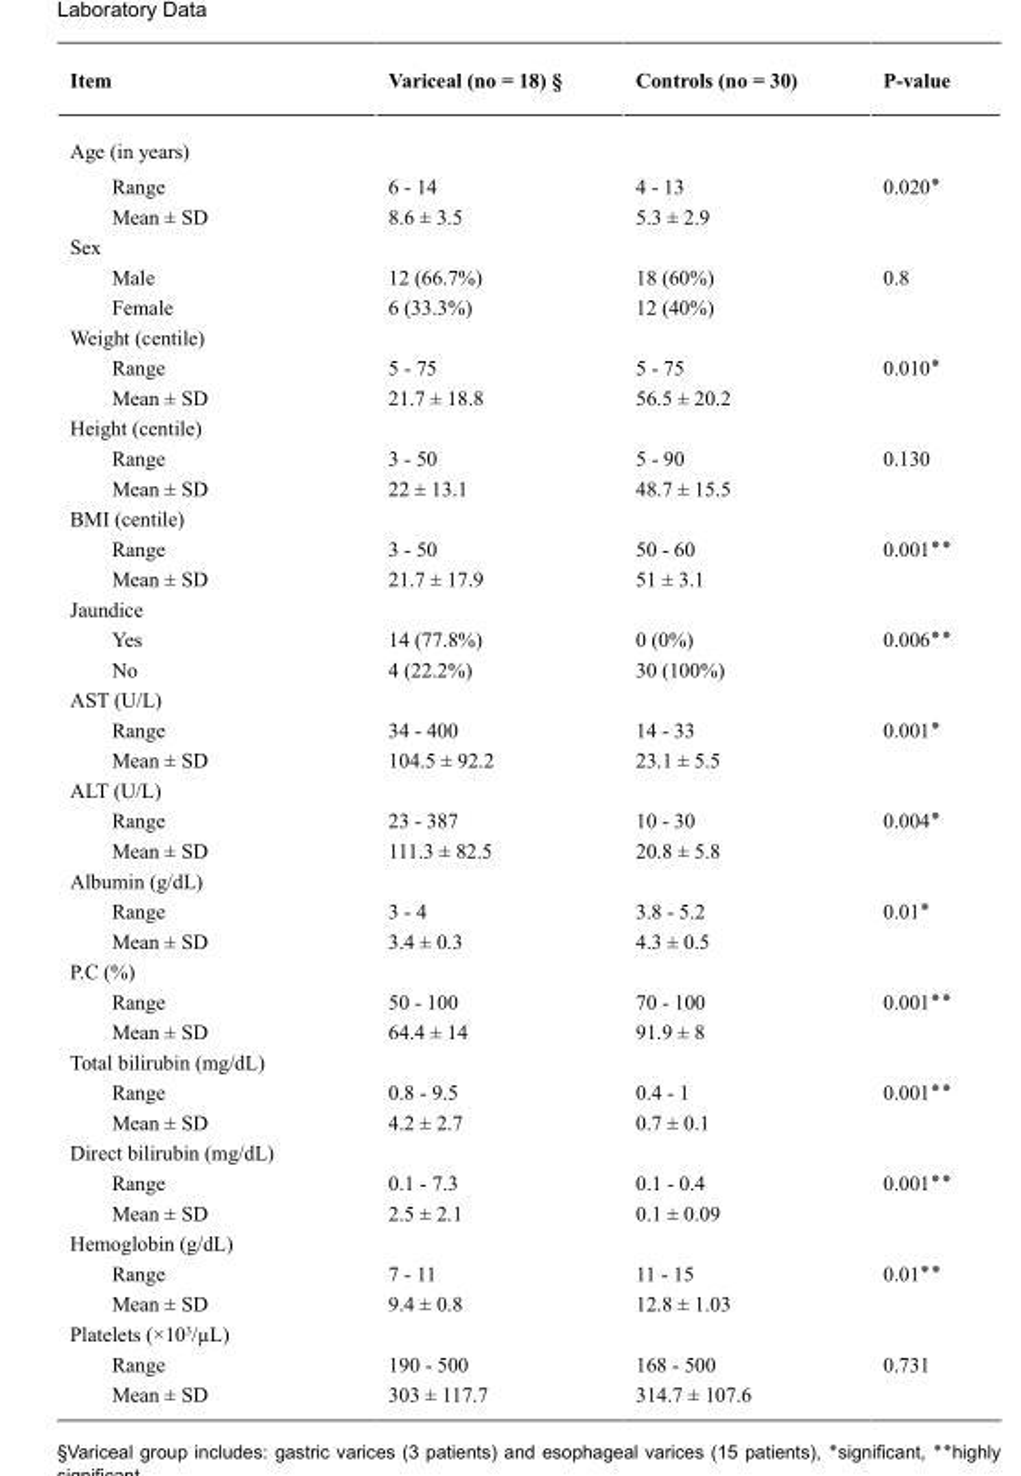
<table><thead><tr><td>Item</td><td>Variceal (no = 18) <sup>§</sup></td><td>Controls (no = 30)</td><td>P-value</td></tr></thead><tbody><tr><td colspan="4">Age (in years)</td></tr><tr><td>Range</td><td>6 - 14</td><td>4 - 13</td><td>0.020٭</td></tr><tr><td>Mean ± SD</td><td>8.6 ± 3.5</td><td>5.3 ± 2.9</td><td></td></tr><tr><td colspan="4">Sex</td></tr><tr><td>Male</td><td>12 (66.7%)</td><td>18 (60%)</td><td>0.8</td></tr><tr><td>Female</td><td>6 (33.3%)</td><td>12 (40%)</td><td></td></tr><tr><td colspan="4">Weight (centile)</td></tr><tr><td>Range</td><td>5 - 75</td><td>5 - 75</td><td>0.010٭</td></tr><tr><td>Mean ± SD</td><td>21.7 ± 18.8</td><td>56.5 ± 20.2</td><td></td></tr><tr><td colspan="4">Height (centile)</td></tr><tr><td>Range</td><td>3 - 50</td><td>5 - 90</td><td>0.130</td></tr><tr><td>Mean ± SD</td><td>22 ± 13.1</td><td>48.7 ± 15.5</td><td></td></tr><tr><td colspan="4">BMI (centile)</td></tr><tr><td>Range</td><td>3 - 50</td><td>50 - 60</td><td>0.001٭٭</td></tr><tr><td>Mean ± SD</td><td>21.7 ± 17.9</td><td>51 ± 3.1</td><td></td></tr><tr><td colspan="4">Jaundice</td></tr><tr><td>Yes</td><td>14 (77.8%)</td><td>0 (0%)</td><td>0.006٭٭</td></tr><tr><td>No</td><td>4 (22.2%)</td><td>30 (100%)</td><td></td></tr><tr><td colspan="4">AST (U/L)</td></tr><tr><td>Range</td><td>34 - 400</td><td>14 - 33</td><td>0.001٭</td></tr><tr><td>Mean ± SD</td><td>104.5 ± 92.2</td><td>23.1 ± 5.5</td><td></td></tr><tr><td colspan="4">ALT (U/L)</td></tr><tr><td>Range</td><td>23 - 387</td><td>10 - 30</td><td>0.004٭</td></tr><tr><td>Mean ± SD</td><td>111.3 ± 82.5</td><td>20.8 ± 5.8</td><td></td></tr><tr><td colspan="4">Albumin (g/dL)</td></tr><tr><td>Range</td><td>3 - 4</td><td>3.8 - 5.2</td><td>0.01٭</td></tr><tr><td>Mean ± SD</td><td>3.4 ± 0.3</td><td>4.3 ± 0.5</td><td></td></tr><tr><td colspan="4">P.C (%)</td></tr><tr><td>Range</td><td>50 - 100</td><td>70 - 100</td><td>0.001٭٭</td></tr><tr><td>Mean ± SD</td><td>64.4 ± 14</td><td>91.9 ± 8</td><td></td></tr><tr><td colspan="4">Total bilirubin (mg/dL)</td></tr><tr><td>Range</td><td>0.8 - 9.5</td><td>0.4 - 1</td><td>0.001٭٭</td></tr><tr><td>Mean ± SD</td><td>4.2 ± 2.7</td><td>0.7 ± 0.1</td><td></td></tr><tr><td colspan="4">Direct bilirubin (mg/dL)</td></tr><tr><td>Range</td><td>0.1 - 7.3</td><td>0.1 - 0.4</td><td>0.001٭٭</td></tr><tr><td>Mean ± SD</td><td>2.5 ± 2.1</td><td>0.1 ± 0.09</td><td></td></tr><tr><td colspan="4">Hemoglobin (g/dL)</td></tr><tr><td>Range</td><td>7 - 11</td><td>11 - 15</td><td>0.01٭٭</td></tr><tr><td>Mean ± SD</td><td>9.4 ± 0.8</td><td>12.8 ± 1.03</td><td></td></tr><tr><td colspan="4">Platelets (×10<sup>3</sup>/µL)</td></tr><tr><td>Range</td><td>190 - 500</td><td>168 - 500</td><td>0.731</td></tr><tr><td>Mean ± SD</td><td>303 ± 117.7</td><td>314.7 ± 107.6</td><td></td></tr></tbody></table>